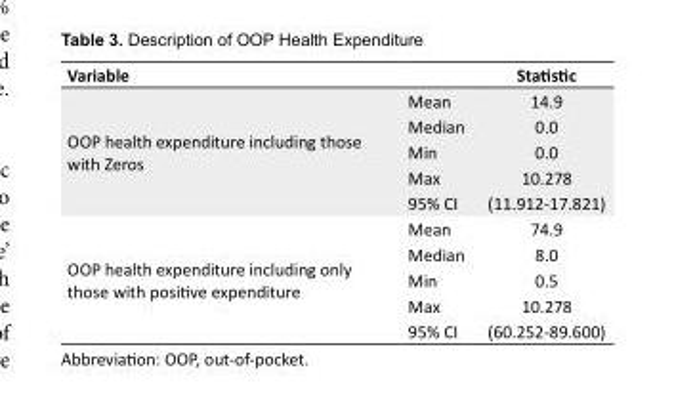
<table><tbody><tr><td>Variable</td><td></td><td>Statistic</td></tr><tr><td rowspan="5">OOP health expenditure including those with Zeros</td><td>Mean</td><td>14.9</td></tr><tr><td>Median</td><td>0.0</td></tr><tr><td>Min</td><td>0.0</td></tr><tr><td>Max</td><td>10.278</td></tr><tr><td>95% CI</td><td>(11.912-17.821)</td></tr><tr><td rowspan="5">OOP health expenditure including only those with positive expenditure</td><td>Mean</td><td>74.9</td></tr><tr><td>Median</td><td>8.0</td></tr><tr><td>Min</td><td>0.5</td></tr><tr><td>Max</td><td>10.278</td></tr><tr><td>95% CI</td><td>(60.252-89.600)</td></tr></tbody></table>